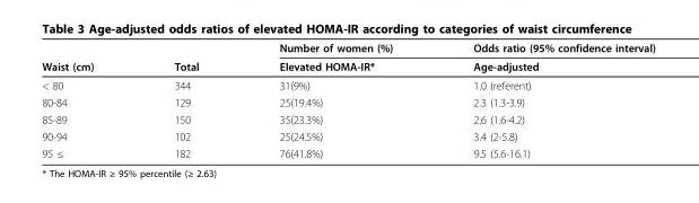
<table><thead><tr><td rowspan="2">Waist (cm)</td><td rowspan="2">Total</td><td rowspan="2">Number of women (%) Elevated HOMA-IR*</td><td rowspan="2">Odds ratio (95% confidence interval) Age-adjusted</td></tr><tr></tr></thead><tbody><tr><td>&lt; 80</td><td>344</td><td>31(9%)</td><td>1.0 (referent)</td></tr><tr><td>80-84</td><td>129</td><td>25(19.4%)</td><td>2.3 (1.3-3.9)</td></tr><tr><td>85-89</td><td>150</td><td>35(23.3%)</td><td>2.6 (1.6-4.2)</td></tr><tr><td>90-94</td><td>102</td><td>25(24.5%)</td><td>3.4 (2-5.8)</td></tr><tr><td>95 ≤</td><td>182</td><td>76(41.8%)</td><td>9.5 (5.6-16.1)</td></tr></tbody></table>